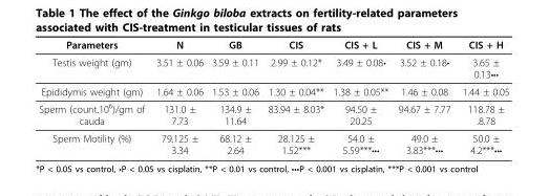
<table><thead><tr><td>Parameters</td><td>N</td><td>GB</td><td>CIS</td><td>CIS + L</td><td>CIS + M</td><td>CIS + H</td></tr></thead><tbody><tr><td>Testis weight (gm)</td><td>3.51 ± 0.06</td><td>3.59 ± 0.11</td><td>2.99 ± 0.12*</td><td>3.49 ± 0.08•</td><td>3.52 ± 0.18•</td><td>3.65 ± 0.13•••</td></tr><tr><td>Epididymis weight (gm)</td><td>1.64 ± 0.06</td><td>1.53 ± 0.06</td><td>1.30 ± 0.04**</td><td>1.38 ± 0.05**</td><td>1.46 ± 0.08</td><td>1.44 ± 0.05</td></tr><tr><td>Sperm (count.10<sup>6</sup>)/gm of cauda</td><td>131.0 ± 7.73</td><td>134.9 ± 11.64</td><td>83.94 ± 8.03*</td><td>94.50 ± 20.25</td><td>94.67 ± 7.77</td><td>118.78 ± .8.78</td></tr><tr><td>Sperm Motility (%)</td><td>79.125 ± 3.34</td><td>68.12 ± 2.64</td><td>28.125 ± 1.52***</td><td>54.0 ± 5.59***•••</td><td>49.0 ± 3.83***•••</td><td>50.0 ± 4.2***•••</td></tr></tbody></table>